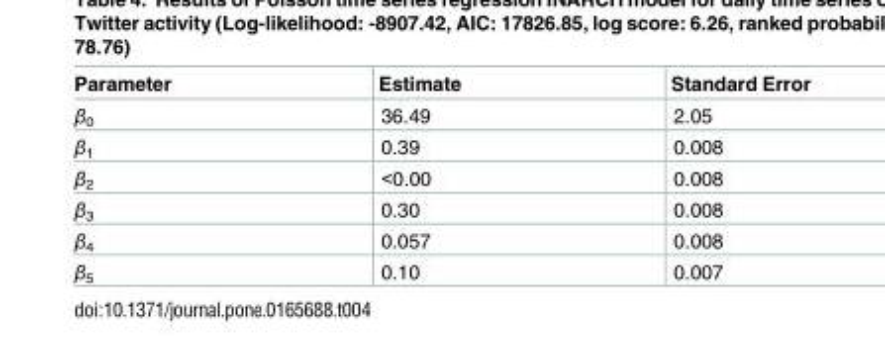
<table><thead><tr><td>Parameter</td><td>Estimate</td><td>Standard Error</td></tr></thead><tbody><tr><td>β<sub>0</sub></td><td>36.49</td><td>2.05</td></tr><tr><td>β<sub>1</sub></td><td>0.39</td><td>0.008</td></tr><tr><td>β<sub>2</sub></td><td>&lt;0.00</td><td>0.008</td></tr><tr><td>β<sub>3</sub></td><td>0.30</td><td>0.008</td></tr><tr><td>β<sub>4</sub></td><td>0.057</td><td>0.008</td></tr><tr><td>β<sub>5</sub></td><td>0.10</td><td>0.007</td></tr></tbody></table>